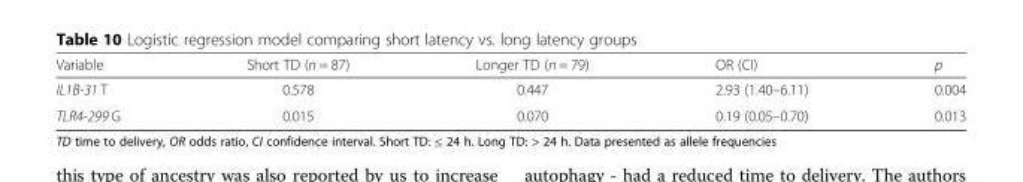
<table><thead><tr><td>Variable</td><td>Short TD (n = 87)</td><td>Longer TD (n = 79)</td><td>OR (CI)</td><td>p</td></tr></thead><tbody><tr><td>IL1B-31 T</td><td>0.578</td><td>0.447</td><td>2.93 (1.40–6.11)</td><td>0.004</td></tr><tr><td>TLR4-299 G</td><td>0.015</td><td>0.070</td><td>0.19 (0.05–0.70)</td><td>0.013</td></tr></tbody></table>